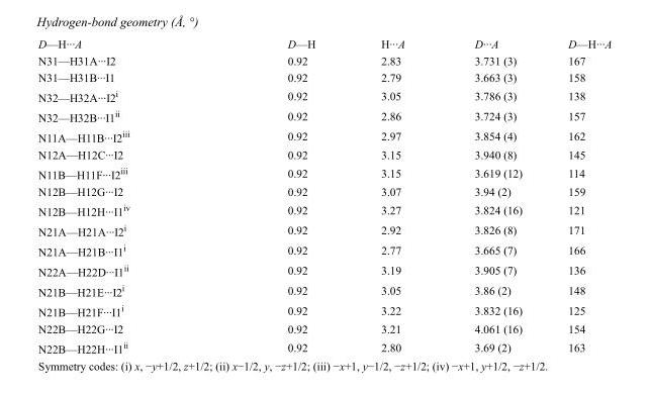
<table><tbody><tr><td>D—H···A</td><td>D—H</td><td>H···A</td><td>D···A</td><td>D—H···A</td></tr><tr><td>N31—H31A···I2</td><td>0.92</td><td>2.83</td><td>3.731 (3)</td><td>167</td></tr><tr><td>N31—H31B···I1</td><td>0.92</td><td>2.79</td><td>3.663 (3)</td><td>158</td></tr><tr><td>N32—H32A···I2<sup>i</sup></td><td>0.92</td><td>3.05</td><td>3.786 (3)</td><td>138</td></tr><tr><td>N32—H32B···I1<sup>ii</sup></td><td>0.92</td><td>2.86</td><td>3.724 (3)</td><td>157</td></tr><tr><td>N11A—H11B···I2<sup>iii</sup></td><td>0.92</td><td>2.97</td><td>3.854 (4)</td><td>162</td></tr><tr><td>N12A—H12C···I2</td><td>0.92</td><td>3.15</td><td>3.940 (8)</td><td>145</td></tr><tr><td>N11B—H11F···I2<sup>iii</sup></td><td>0.92</td><td>3.15</td><td>3.619 (12)</td><td>114</td></tr><tr><td>N12B—H12G···I2</td><td>0.92</td><td>3.07</td><td>3.94 (2)</td><td>159</td></tr><tr><td>N12B—H12H···I1<sup>iv</sup></td><td>0.92</td><td>3.27</td><td>3.824 (16)</td><td>121</td></tr><tr><td>N21A—H21A···I2<sup>i</sup></td><td>0.92</td><td>2.92</td><td>3.826 (8)</td><td>171</td></tr><tr><td>N21A—H21B···I1<sup>i</sup></td><td>0.92</td><td>2.77</td><td>3.665 (7)</td><td>166</td></tr><tr><td>N22A—H22D···I1<sup>ii</sup></td><td>0.92</td><td>3.19</td><td>3.905 (7)</td><td>136</td></tr><tr><td>N21B—H21E···I2<sup>i</sup></td><td>0.92</td><td>3.05</td><td>3.86 (2)</td><td>148</td></tr><tr><td>N21B—H21F···I1<sup>i</sup></td><td>0.92</td><td>3.22</td><td>3.832 (16)</td><td>125</td></tr><tr><td>N22B—H22G···I2</td><td>0.92</td><td>3.21</td><td>4.061 (16)</td><td>154</td></tr><tr><td>N22B—H22H···I1<sup>ii</sup></td><td>0.92</td><td>2.80</td><td>3.69 (2)</td><td>163</td></tr></tbody></table>